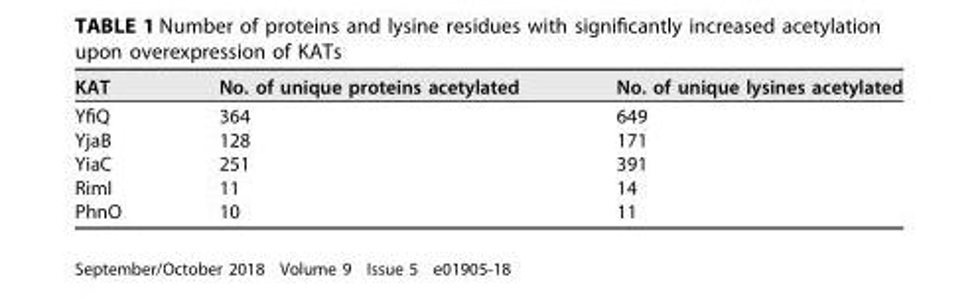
<table><thead><tr><td>KAT</td><td>No. of unique proteins acetylated</td><td>No. of unique lysines acetylated</td></tr></thead><tbody><tr><td>YfiQ</td><td>364</td><td>649</td></tr><tr><td>YjaB</td><td>128</td><td>171</td></tr><tr><td>YiaC</td><td>251</td><td>391</td></tr><tr><td>RimI</td><td>11</td><td>14</td></tr><tr><td>PhnO</td><td>10</td><td>11</td></tr></tbody></table>